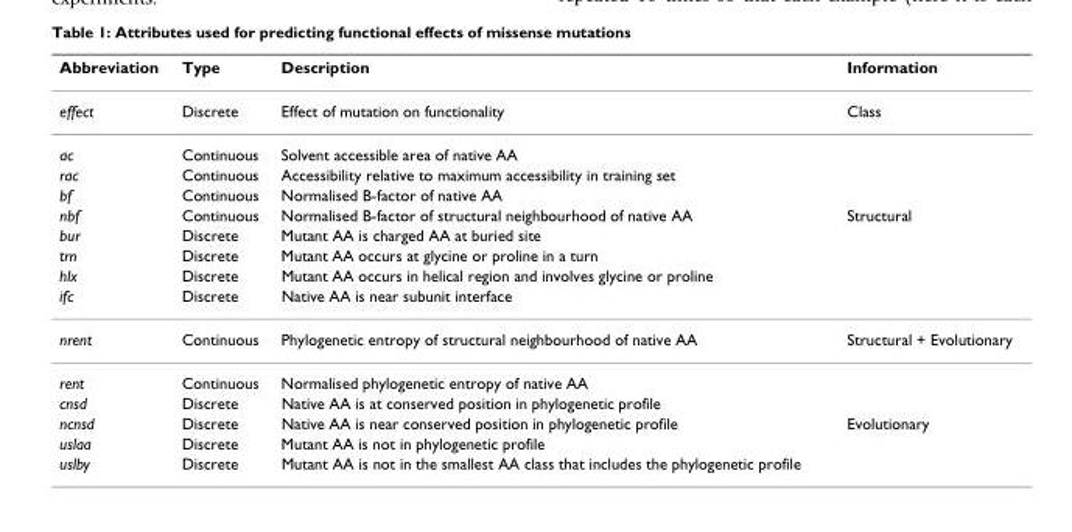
<table><thead><tr><td>Abbreviation</td><td>Type</td><td>Description</td><td>Information</td></tr></thead><tbody><tr><td>effect</td><td>Discrete</td><td>Effect of mutation on functionality</td><td>Class</td></tr><tr><td>ac</td><td>Continuous</td><td>Solvent accessible area of native AA</td><td></td></tr><tr><td>rac</td><td>Continuous</td><td>Accessibility relative to maximum accessibility in training set</td><td></td></tr><tr><td>bf</td><td>Continuous</td><td>Normalised B-factor of native AA</td><td></td></tr><tr><td>nbf</td><td>Continuous</td><td>Normalised B-factor of structural neighbourhood of native AA</td><td>Structural</td></tr><tr><td>bur</td><td>Discrete</td><td>Mutant AA is charged AA at buried site</td><td></td></tr><tr><td>trn</td><td>Discrete</td><td>Mutant AA occurs at glycine or proline in a turn</td><td></td></tr><tr><td>hlx</td><td>Discrete</td><td>Mutant AA occurs in helical region and involves glycine or proline</td><td></td></tr><tr><td>ifc</td><td>Discrete</td><td>Native AA is near subunit interface</td><td></td></tr><tr><td>nrent</td><td>Continuous</td><td>Phylogenetic entropy of structural neighbourhood of native AA</td><td>Structural + Evolutionary</td></tr><tr><td>rent</td><td>Continuous</td><td>Normalised phylogenetic entropy of native AA</td><td></td></tr><tr><td>cnsd</td><td>Discrete</td><td>Native AA is at conserved position in phylogenetic profile</td><td></td></tr><tr><td>ncnsd</td><td>Discrete</td><td>Native AA is near conserved position in phylogenetic profile</td><td>Evolutionary</td></tr><tr><td>uslaa</td><td>Discrete</td><td>Mutant AA is not in phylogenetic profile</td><td></td></tr><tr><td>uslby</td><td>Discrete</td><td>Mutant AA is not in the smallest AA class that includes the phylogenetic profile</td><td></td></tr></tbody></table>